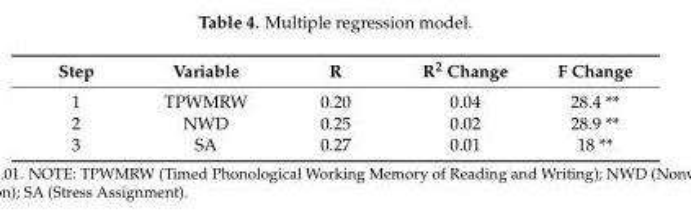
<table><thead><tr><td>Step</td><td>Variable</td><td>R</td><td>R<sup>2</sup> Change</td><td>F Change</td></tr></thead><tbody><tr><td>1</td><td>TPWMRW</td><td>0.20</td><td>0.04</td><td>28.4 **</td></tr><tr><td>2</td><td>NWD</td><td>0.25</td><td>0.02</td><td>28.9 **</td></tr><tr><td>3</td><td>SA</td><td>0.27</td><td>0.01</td><td>18 **</td></tr></tbody></table>